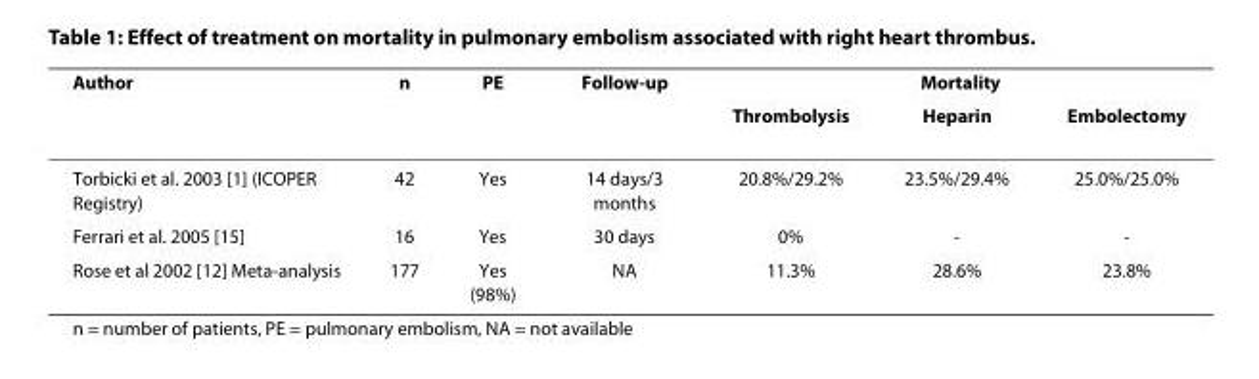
<table><thead><tr><td rowspan="2">Author</td><td rowspan="2">n</td><td rowspan="2">PE</td><td rowspan="2">Follow-up</td><td colspan="3">Mortality</td></tr><tr><td>Thrombolysis</td><td>Heparin</td><td>Embolectomy</td></tr></thead><tbody><tr><td>Torbicki et al. 2003 [1] (ICOPER Registry)</td><td>42</td><td>Yes</td><td>14 days/3 months</td><td>20.8%/29.2%</td><td>23.5%/29.4%</td><td>25.0%/25.0%</td></tr><tr><td>Ferrari et al. 2005 [15]</td><td>16</td><td>Yes</td><td>30 days</td><td>0%</td><td>-</td><td>-</td></tr><tr><td>Rose et al 2002 [12] Meta-analysis</td><td>177</td><td>Yes (98%)</td><td>NA</td><td>11.3%</td><td>28.6%</td><td>23.8%</td></tr></tbody></table>